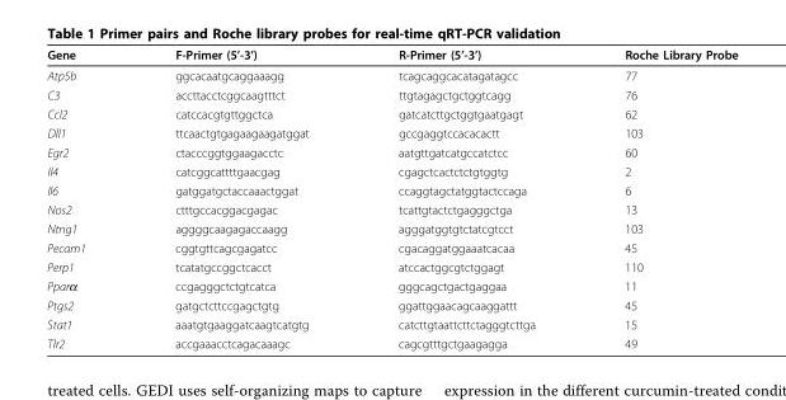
<table><thead><tr><td>Gene</td><td>F-Primer (5’-3’)</td><td>R-Primer (5’-3’)</td><td>Roche Library Probe</td></tr></thead><tbody><tr><td>Atp5b</td><td>ggcacaatgcaggaaagg</td><td>tcagcaggcacatagatagcc</td><td>77</td></tr><tr><td>C3</td><td>accttacctcggcaagtttct</td><td>ttgtagagctgctggtcagg</td><td>76</td></tr><tr><td>Ccl2</td><td>catccacgtgttggctca</td><td>gatcatcttgctggtgaatgagt</td><td>62</td></tr><tr><td>Dll1</td><td>ttcaactgtgagaagaagatggat</td><td>gccgaggtccacacactt</td><td>103</td></tr><tr><td>Egr2</td><td>ctacccggtggaagacctc</td><td>aatgttgatcatgccatctcc</td><td>60</td></tr><tr><td>Il4</td><td>catcggcattttgaacgag</td><td>cgagctcactctctgtggtg</td><td>2</td></tr><tr><td>Il6</td><td>gatggatgctaccaaactggat</td><td>ccaggtagctatggtactccaga</td><td>6</td></tr><tr><td>Nos2</td><td>ctttgccacggacgagac</td><td>tcattgtactctgagggctga</td><td>13</td></tr><tr><td>Ntng1</td><td>aggggcaagagaccaagg</td><td>agggatggtgtctatcgtcct</td><td>103</td></tr><tr><td>Pecam1</td><td>cggtgttcagcgagatcc</td><td>cgacaggatggaaatcacaa</td><td>45</td></tr><tr><td>Perp1</td><td>tcatatgccggctcacct</td><td>atccactggcgtctggagt</td><td>110</td></tr><tr><td>Pparα</td><td>ccgagggctctgtcatca</td><td>gggcagctgactgaggaa</td><td>11</td></tr><tr><td>Ptgs2</td><td>gatgctcttccgagctgtg</td><td>ggattggaacagcaaggattt</td><td>45</td></tr><tr><td>Stat1</td><td>aaatgtgaaggatcaagtcatgtg</td><td>catcttgtaattcttctagggtcttga</td><td>15</td></tr><tr><td>Tlr2</td><td>accgaaacctcagacaaagc</td><td>cagcgtttgctgaagagga</td><td>49</td></tr></tbody></table>